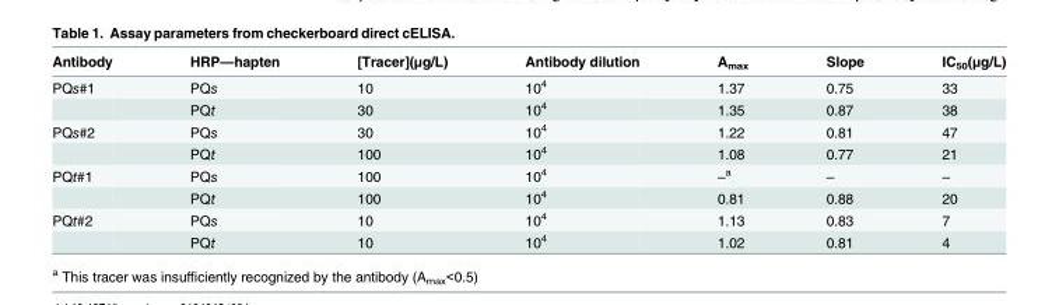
<table><thead><tr><td>Antibody</td><td>HRP—hapten</td><td>[Tracer](μg/L)</td><td>Antibody dilution</td><td>A<sub>max</sub></td><td>Slope</td><td>IC<sub>50</sub>(μg/L)</td></tr></thead><tbody><tr><td rowspan="2">PQs#1</td><td>PQs</td><td>10</td><td>10<sup>4</sup></td><td>1.37</td><td>0.75</td><td>33</td></tr><tr><td>PQt</td><td>30</td><td>10<sup>4</sup></td><td>1.35</td><td>0.87</td><td>38</td></tr><tr><td rowspan="2">PQs#2</td><td>PQs</td><td>30</td><td>10<sup>4</sup></td><td>1.22</td><td>0.81</td><td>47</td></tr><tr><td>PQt</td><td>100</td><td>10<sup>4</sup></td><td>1.08</td><td>0.77</td><td>21</td></tr><tr><td rowspan="2">PQt#1</td><td>PQs</td><td>100</td><td>10<sup>4</sup></td><td>–a</td><td>–</td><td>–</td></tr><tr><td>PQt</td><td>100</td><td>10<sup>4</sup></td><td>0.81</td><td>0.88</td><td>20</td></tr><tr><td rowspan="2">PQt#2</td><td>PQs</td><td>10</td><td>10<sup>4</sup></td><td>1.13</td><td>0.83</td><td>7</td></tr><tr><td>PQt</td><td>10</td><td>10<sup>4</sup></td><td>1.02</td><td>0.81</td><td>4</td></tr></tbody></table>